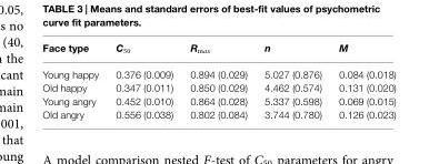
<table><thead><tr><td>Face type</td><td>C<sub>50</sub></td><td>R<sub>max</sub></td><td>n</td><td>M</td></tr></thead><tbody><tr><td>Young happy</td><td>0.376 (0.009)</td><td>0.894 (0.029)</td><td>5.027 (0.876)</td><td>0.084 (0.018)</td></tr><tr><td>Old happy</td><td>0.347 (0.011)</td><td>0.850 (0.029)</td><td>4.462 (0.574)</td><td>0.131 (0.020)</td></tr><tr><td>Young angry</td><td>0.452 (0.010)</td><td>0.864 (0.028)</td><td>5.337 (0.598)</td><td>0.069 (0.015)</td></tr><tr><td>Old angry</td><td>0.556 (0.038)</td><td>0.802 (0.084)</td><td>3.744 (0.780)</td><td>0.126 (0.023)</td></tr></tbody></table>